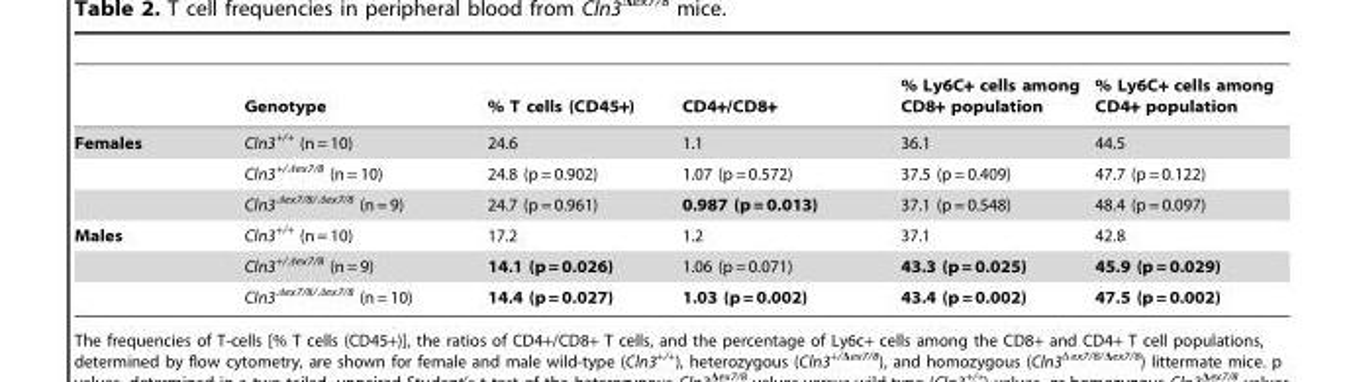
<table><thead><tr><td></td><td>Genotype</td><td>% T cells (CD45+)</td><td>CD4+/CD8+</td><td>% Ly6C+ cells among CD8+ population</td><td>% Ly6C+ cells among CD4+ population</td></tr></thead><tbody><tr><td rowspan="3">Females</td><td>Cln3<sup>+/+</sup> (n = 10)</td><td>24.6</td><td>1.1</td><td>36.1</td><td>44.5</td></tr><tr><td>Cln3<sup>+/Δex7/8</sup> (n = 10)</td><td>24.8 (p = 0.902)</td><td>1.07 (p = 0.572)</td><td>37.5 (p = 0.409)</td><td>47.7 (p = 0.122)</td></tr><tr><td>Cln3<sup>Δex7/8/Δex7/8</sup> (n = 9)</td><td>24.7 (p = 0.961)</td><td>0.987 (p = 0.013)</td><td>37.1 (p = 0.548)</td><td>48.4 (p = 0.097)</td></tr><tr><td rowspan="3">Males</td><td>Cln3<sup>+/+</sup> (n = 10)</td><td>17.2</td><td>1.2</td><td>37.1</td><td>42.8</td></tr><tr><td>Cln3<sup>+/Δex7/8</sup> (n = 9)</td><td>14.1 (p = 0.026)</td><td>1.06 (p = 0.071)</td><td>43.3 (p = 0.025)</td><td>45.9 (p = 0.029)</td></tr><tr><td>Cln3<sup>Δex7/8/Δex7/8</sup> (n = 10)</td><td>14.4 (p = 0.027)</td><td>1.03 (p = 0.002)</td><td>43.4 (p = 0.002)</td><td>47.5 (p = 0.002)</td></tr></tbody></table>